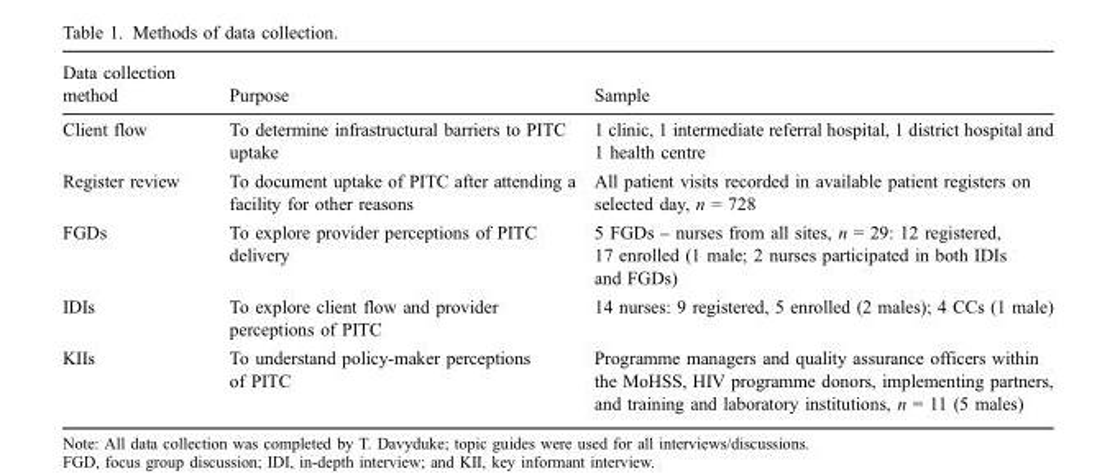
<table><thead><tr><td>Data collection method</td><td>Purpose</td><td>Sample</td></tr></thead><tbody><tr><td>Client flow</td><td>To determine infrastructural barriers to PITC uptake</td><td>1 clinic, 1 intermediate referral hospital, 1 district hospital and 1 health centre</td></tr><tr><td>Register review</td><td>To document uptake of PITC after attending a facility for other reasons</td><td>All patient visits recorded in available patient registers on selected day, n = 728</td></tr><tr><td>FGDs</td><td>To explore provider perceptions of PITC delivery</td><td>5 FGDs – nurses from all sites, n = 29: 12 registered, 17 enrolled (1 male; 2 nurses participated in both IDIs and FGDs)</td></tr><tr><td>IDIs</td><td>To explore client flow and provider perceptions of PITC</td><td>14 nurses: 9 registered, 5 enrolled (2 males); 4 CCs (1 male)</td></tr><tr><td>KIIs</td><td>To understand policy-maker perceptions of PITC</td><td>Programme managers and quality assurance officers within the MoHSS, HIV programme donors, implementing partners, and training and laboratory institutions, n = 11 (5 males)</td></tr></tbody></table>